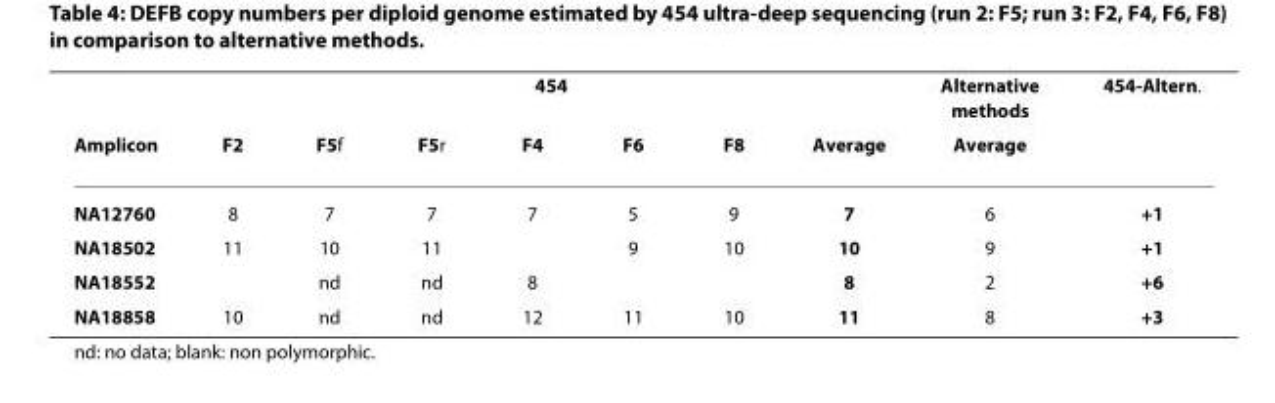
<table><thead><tr><td rowspan="2">Amplicon</td><td colspan="7">454</td><td rowspan="2">Alternative methods Average</td><td rowspan="2">454-Altern.</td></tr><tr><td>F2</td><td>F5f</td><td>F5r</td><td>F4</td><td>F6</td><td>F8</td><td>Average</td></tr></thead><tbody><tr><td>NA12760</td><td>8</td><td>7</td><td>7</td><td>7</td><td>5</td><td>9</td><td>7</td><td>6</td><td>+1</td></tr><tr><td>NA18502</td><td>11</td><td>10</td><td>11</td><td></td><td>9</td><td>10</td><td>10</td><td>9</td><td>+1</td></tr><tr><td>NA18552</td><td></td><td>nd</td><td>nd</td><td>8</td><td></td><td></td><td>8</td><td>2</td><td>+6</td></tr><tr><td>NA18858</td><td>10</td><td>nd</td><td>nd</td><td>12</td><td>11</td><td>10</td><td>11</td><td>8</td><td>+3</td></tr></tbody></table>